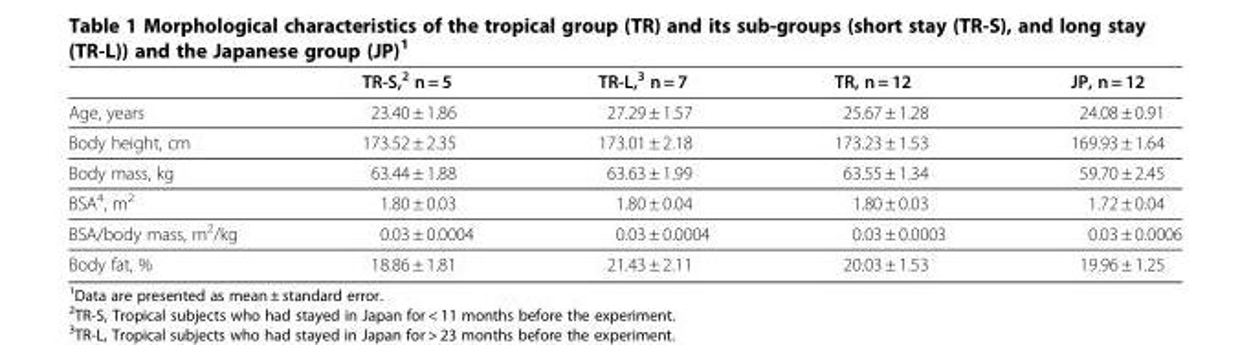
<table><thead><tr><td></td><td>TR-S,<sup>2</sup> n = 5</td><td>TR-L,<sup>3</sup> n = 7</td><td>TR, n = 12</td><td>JP, n = 12</td></tr></thead><tbody><tr><td>Age, years</td><td>23.40 ± 1.86</td><td>27.29 ± 1.57</td><td>25.67 ± 1.28</td><td>24.08 ± 0.91</td></tr><tr><td>Body height, cm</td><td>173.52 ± 2.35</td><td>173.01 ± 2.18</td><td>173.23 ± 1.53</td><td>169.93 ± 1.64</td></tr><tr><td>Body mass, kg</td><td>63.44 ± 1.88</td><td>63.63 ± 1.99</td><td>63.55 ± 1.34</td><td>59.70 ± 2.45</td></tr><tr><td>BSA<sup>4</sup>, m<sup>2</sup></td><td>1.80 ± 0.03</td><td>1.80 ± 0.04</td><td>1.80 ± 0.03</td><td>1.72 ± 0.04</td></tr><tr><td>BSA/body mass, m<sup>2</sup>/kg</td><td>0.03 ± 0.0004</td><td>0.03 ± 0.0004</td><td>0.03 ± 0.0003</td><td>0.03 ± 0.0006</td></tr><tr><td>Body fat, %</td><td>18.86 ± 1.81</td><td>21.43 ± 2.11</td><td>20.03 ± 1.53</td><td>19.96 ± 1.25</td></tr></tbody></table>